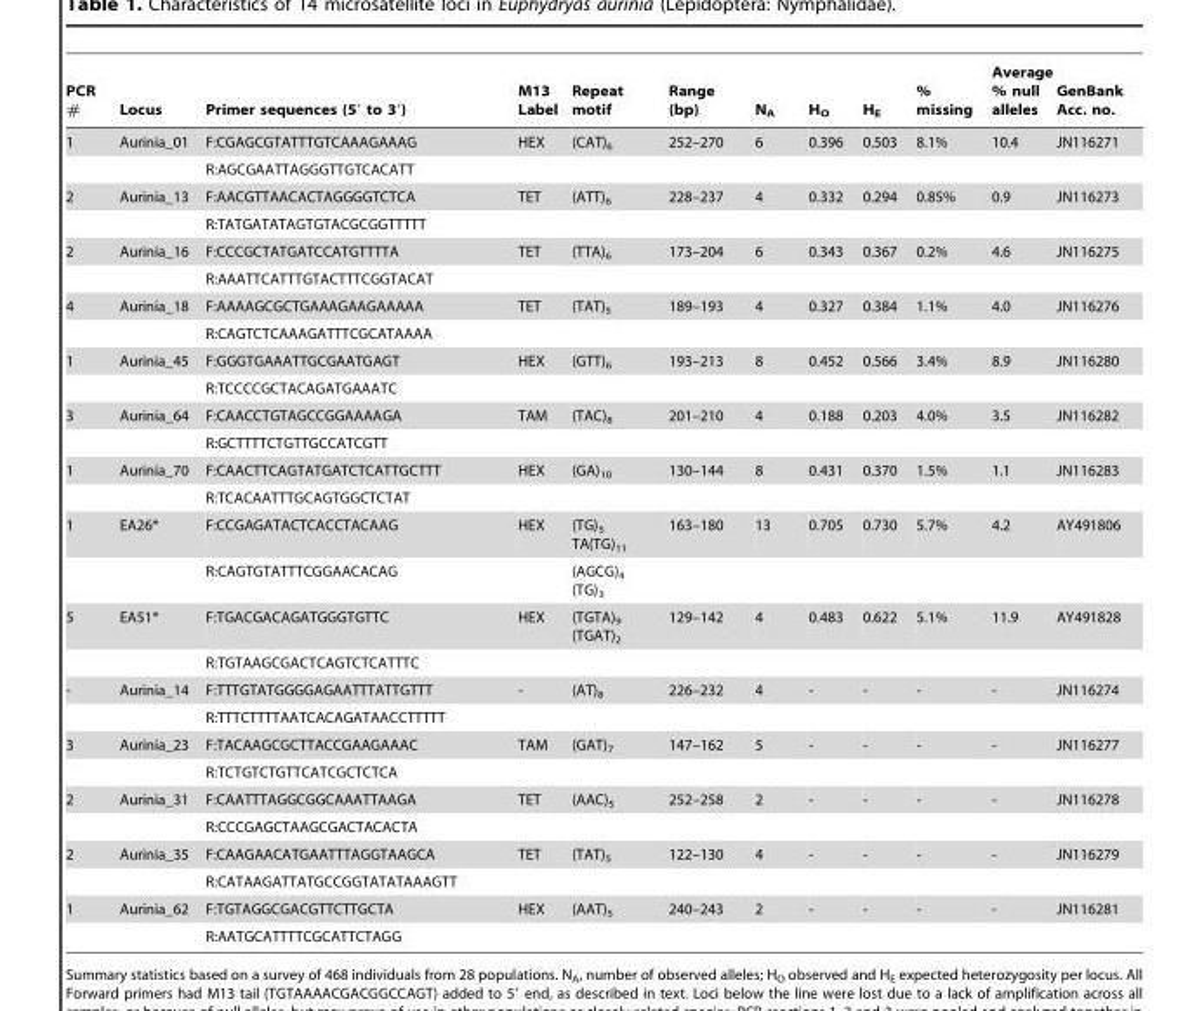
<table><thead><tr><td>PCR #</td><td>Locus</td><td>Primer sequences (5′ to 3′)</td><td>M13 Label</td><td>Repeat motif</td><td>Range (bp)</td><td>N<sub>A</sub></td><td>H<sub>O</sub></td><td>H<sub>E</sub></td><td>% missing</td><td>Average % null alleles</td><td>GenBank Acc. no.</td></tr></thead><tbody><tr><td rowspan="2">1</td><td>Aurinia_01</td><td>F:CGAGCGTATTTGTCAAAGAAAG</td><td>HEX</td><td>(CAT)<sub>6</sub></td><td>252–270</td><td>6</td><td>0.396</td><td>0.503</td><td>8.1%</td><td>10.4</td><td>JN116271</td></tr><tr><td></td><td>R:AGCGAATTAGGGTTGTCACATT</td><td></td><td></td><td></td><td></td><td></td><td></td><td></td><td></td><td></td></tr><tr><td rowspan="2">2</td><td>Aurinia_13</td><td>F:AACGTTAACACTAGGGGTCTCA</td><td>TET</td><td>(ATT)<sub>6</sub></td><td>228–237</td><td>4</td><td>0.332</td><td>0.294</td><td>0.85%</td><td>0.9</td><td>JN116273</td></tr><tr><td></td><td>R:TATGATATAGTGTACGCGGTTTTT</td><td></td><td></td><td></td><td></td><td></td><td></td><td></td><td></td><td></td></tr><tr><td rowspan="2">2</td><td>Aurinia_16</td><td>F:CCCGCTATGATCCATGTTTTA</td><td>TET</td><td>(TTA)<sub>6</sub></td><td>173–204</td><td>6</td><td>0.343</td><td>0.367</td><td>0.2%</td><td>4.6</td><td>JN116275</td></tr><tr><td></td><td>R:AAATTCATTTGTACTTTCGGTACAT</td><td></td><td></td><td></td><td></td><td></td><td></td><td></td><td></td><td></td></tr><tr><td rowspan="2">4</td><td>Aurinia_18</td><td>F:AAAAGCGCTGAAAGAAGAAAAA</td><td>TET</td><td>(TAT)<sub>5</sub></td><td>189–193</td><td>4</td><td>0.327</td><td>0.384</td><td>1.1%</td><td>4.0</td><td>JN116276</td></tr><tr><td></td><td>R:CAGTCTCAAAGATTTCGCATAAAA</td><td></td><td></td><td></td><td></td><td></td><td></td><td></td><td></td><td></td></tr><tr><td rowspan="2">1</td><td>Aurinia_45</td><td>F:GGGTGAAATTGCGAATGAGT</td><td>HEX</td><td>(GTT)<sub>6</sub></td><td>193–213</td><td>8</td><td>0.452</td><td>0.566</td><td>3.4%</td><td>8.9</td><td>JN116280</td></tr><tr><td></td><td>R:TCCCCGCTACAGATGAAATC</td><td></td><td></td><td></td><td></td><td></td><td></td><td></td><td></td><td></td></tr><tr><td rowspan="2">3</td><td>Aurinia_64</td><td>F:CAACCTGTAGCCGGAAAAGA</td><td>TAM</td><td>(TAC)<sub>8</sub></td><td>201–210</td><td>4</td><td>0.188</td><td>0.203</td><td>4.0%</td><td>3.5</td><td>JN116282</td></tr><tr><td></td><td>R:GCTTTTCTGTTGCCATCGTT</td><td></td><td></td><td></td><td></td><td></td><td></td><td></td><td></td><td></td></tr><tr><td rowspan="2">1</td><td>Aurinia_70</td><td>F:CAACTTCAGTATGATCTCATTGCTTT</td><td>HEX</td><td>(GA)<sub>10</sub></td><td>130–144</td><td>8</td><td>0.431</td><td>0.370</td><td>1.5%</td><td>1.1</td><td>JN116283</td></tr><tr><td></td><td>R:TCACAATTTGCAGTGGCTCTAT</td><td></td><td></td><td></td><td></td><td></td><td></td><td></td><td></td><td></td></tr><tr><td rowspan="2">1</td><td>EA26*</td><td>F:CCGAGATACTCACCTACAAG</td><td>HEX</td><td>(TG)<sub>5</sub> TA(TG)<sub>11</sub></td><td>163–180</td><td>13</td><td>0.705</td><td>0.730</td><td>5.7%</td><td>4.2</td><td>AY491806</td></tr><tr><td></td><td>R:CAGTGTATTTCGGAACACAG</td><td></td><td>(AGCG)<sub>4</sub> (TG)<sub>3</sub></td><td></td><td></td><td></td><td></td><td></td><td></td><td></td></tr><tr><td rowspan="2">5</td><td>EA51*</td><td>F:TGACGACAGATGGGTGTTC</td><td>HEX</td><td>(TGTA)<sub>9</sub> (TGAT)<sub>2</sub></td><td>129–142</td><td>4</td><td>0.483</td><td>0.622</td><td>5.1%</td><td>11.9</td><td>AY491828</td></tr><tr><td></td><td>R:TGTAAGCGACTCAGTCTCATTTC</td><td></td><td></td><td></td><td></td><td></td><td></td><td></td><td></td><td></td></tr><tr><td rowspan="2">-</td><td>Aurinia_14</td><td>F:TTTGTATGGGGAGAATTTATTGTTT</td><td>-</td><td>(AT)<sub>8</sub></td><td>226–232</td><td>4</td><td>-</td><td>-</td><td>-</td><td>-</td><td>JN116274</td></tr><tr><td></td><td>R:TTTCTTTTAATCACAGATAACCTTTTT</td><td></td><td></td><td></td><td></td><td></td><td></td><td></td><td></td><td></td></tr><tr><td rowspan="2">3</td><td>Aurinia_23</td><td>F:TACAAGCGCTTACCGAAGAAAC</td><td>TAM</td><td>(GAT)<sub>7</sub></td><td>147–162</td><td>5</td><td>-</td><td>-</td><td>-</td><td>-</td><td>JN116277</td></tr><tr><td></td><td>R:TCTGTCTGTTCATCGCTCTCA</td><td></td><td></td><td></td><td></td><td></td><td></td><td></td><td></td><td></td></tr><tr><td rowspan="2">2</td><td>Aurinia_31</td><td>F:CAATTTAGGCGGCAAATTAAGA</td><td>TET</td><td>(AAC)<sub>5</sub></td><td>252–258</td><td>2</td><td>-</td><td>-</td><td>-</td><td>-</td><td>JN116278</td></tr><tr><td></td><td>R:CCCGAGCTAAGCGACTACACTA</td><td></td><td></td><td></td><td></td><td></td><td></td><td></td><td></td><td></td></tr><tr><td rowspan="2">2</td><td>Aurinia_35</td><td>F:CAAGAACATGAATTTAGGTAAGCA</td><td>TET</td><td>(TAT)<sub>5</sub></td><td>122–130</td><td>4</td><td>-</td><td>-</td><td>-</td><td>-</td><td>JN116279</td></tr><tr><td></td><td>R:CATAAGATTATGCCGGTATATAAAGTT</td><td></td><td></td><td></td><td></td><td></td><td></td><td></td><td></td><td></td></tr><tr><td rowspan="2">1</td><td>Aurinia_62</td><td>F:TGTAGGCGACGTTCTTGCTA</td><td>HEX</td><td>(AAT)<sub>5</sub></td><td>240–243</td><td>2</td><td>-</td><td>-</td><td>-</td><td>-</td><td>JN116281</td></tr><tr><td></td><td>R:AATGCATTTTCGCATTCTAGG</td><td></td><td></td><td></td><td></td><td></td><td></td><td></td><td></td><td></td></tr></tbody></table>